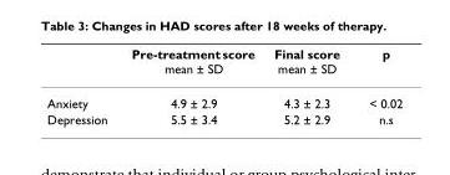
<table><thead><tr><td></td><td>Pre-treatment score mean ± SD</td><td>Final score mean ± SD</td><td>p</td></tr></thead><tbody><tr><td>Anxiety</td><td>4.9 ± 2.9</td><td>4.3 ± 2.3</td><td>&lt; 0.02</td></tr><tr><td>Depression</td><td>5.5 ± 3.4</td><td>5.2 ± 2.9</td><td>n.s</td></tr></tbody></table>